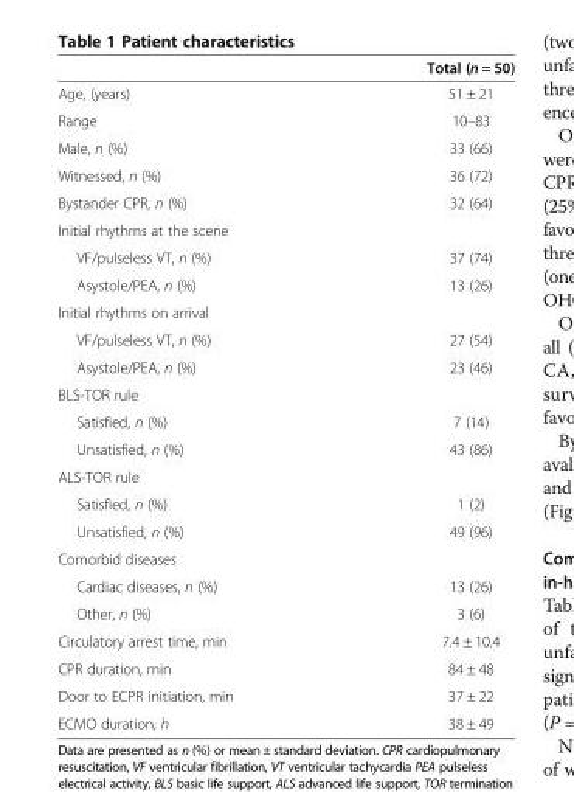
<table><thead><tr><td></td><td>Total (n = 50)</td></tr></thead><tbody><tr><td>Age, (years)</td><td>51 ± 21</td></tr><tr><td>Range</td><td>10–83</td></tr><tr><td>Male, n (%)</td><td>33 (66)</td></tr><tr><td>Witnessed, n (%)</td><td>36 (72)</td></tr><tr><td>Bystander CPR, n (%)</td><td>32 (64)</td></tr><tr><td colspan="2">Initial rhythms at the scene</td></tr><tr><td>VF/pulseless VT, n (%)</td><td>37 (74)</td></tr><tr><td>Asystole/PEA, n (%)</td><td>13 (26)</td></tr><tr><td colspan="2">Initial rhythms on arrival</td></tr><tr><td>VF/pulseless VT, n (%)</td><td>27 (54)</td></tr><tr><td>Asystole/PEA, n (%)</td><td>23 (46)</td></tr><tr><td colspan="2">BLS-TOR rule</td></tr><tr><td>Satisfied, n (%)</td><td>7 (14)</td></tr><tr><td>Unsatisfied, n (%)</td><td>43 (86)</td></tr><tr><td colspan="2">ALS-TOR rule</td></tr><tr><td>Satisfied, n (%)</td><td>1 (2)</td></tr><tr><td>Unsatisfied, n (%)</td><td>49 (96)</td></tr><tr><td colspan="2">Comorbid diseases</td></tr><tr><td>Cardiac diseases, n (%)</td><td>13 (26)</td></tr><tr><td>Other, n (%)</td><td>3 (6)</td></tr><tr><td>Circulatory arrest time, min</td><td>7.4 ± 10.4</td></tr><tr><td>CPR duration, min</td><td>84 ± 48</td></tr><tr><td>Door to ECPR initiation, min</td><td>37 ± 22</td></tr><tr><td>ECMO duration, h</td><td>38 ± 49</td></tr></tbody></table>